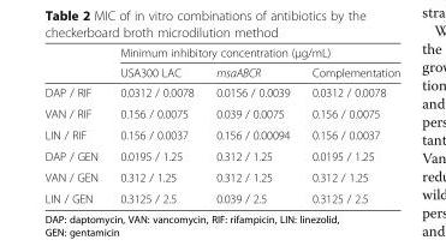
<table><thead><tr><td rowspan="2"></td><td colspan="3">Minimum inhibitory concentration (μg/mL)</td></tr><tr><td>USA300 LAC</td><td>msaABCR</td><td>Complementation</td></tr></thead><tbody><tr><td>DAP / RIF</td><td>0.0312 / 0.0078</td><td>0.0156 / 0.0039</td><td>0.0312 / 0.0078</td></tr><tr><td>VAN / RIF</td><td>0.156 / 0.0075</td><td>0.039 / 0.0075</td><td>0.156 / 0.0075</td></tr><tr><td>LIN / RIF</td><td>0.156 / 0.0037</td><td>0.156 / 0.00094</td><td>0.156 / 0.0037</td></tr><tr><td>DAP / GEN</td><td>0.0195 / 1.25</td><td>0.312 / 1.25</td><td>0.0195 / 1.25</td></tr><tr><td>VAN / GEN</td><td>0.312 / 1.25</td><td>0.312 / 1.25</td><td>0.312 / 1.25</td></tr><tr><td>LIN / GEN</td><td>0.3125 / 2.5</td><td>0.039 / 2.5</td><td>0.3125 / 2.5</td></tr></tbody></table>